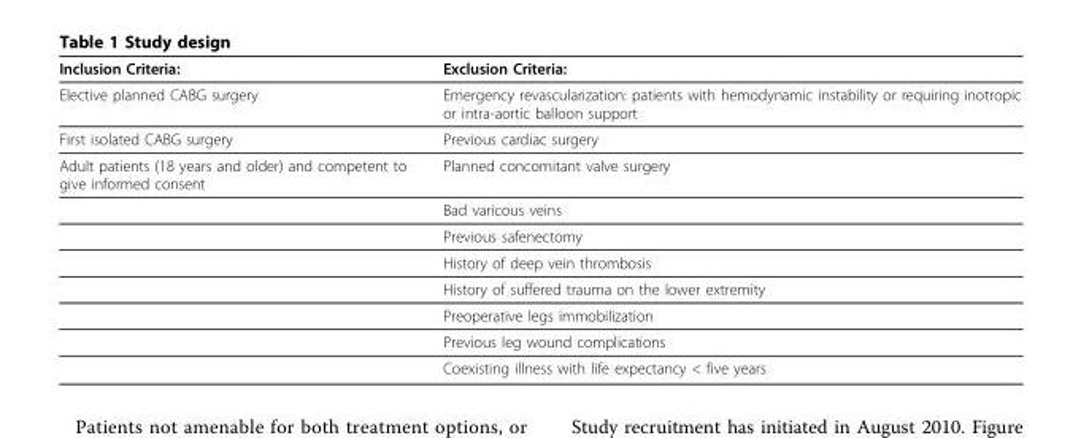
<table><thead><tr><td>Inclusion Criteria:</td><td>Exclusion Criteria:</td></tr></thead><tbody><tr><td>Elective planned CABG surgery</td><td>Emergency revascularization: patients with hemodynamic instability or requiring inotropic or intra-aortic balloon support</td></tr><tr><td>First isolated CABG surgery</td><td>Previous cardiac surgery</td></tr><tr><td rowspan="8">Adult patients (18 years and older) and competent to give informed consent</td><td>Planned concomitant valve surgery</td></tr><tr><td>Bad varicous veins</td></tr><tr><td>Previous safenectomy</td></tr><tr><td>History of deep vein thrombosis</td></tr><tr><td>History of suffered trauma on the lower extremity</td></tr><tr><td>Preoperative legs immobilization</td></tr><tr><td>Previous leg wound complications</td></tr><tr><td>Coexisting illness with life expectancy &lt; five years</td></tr></tbody></table>